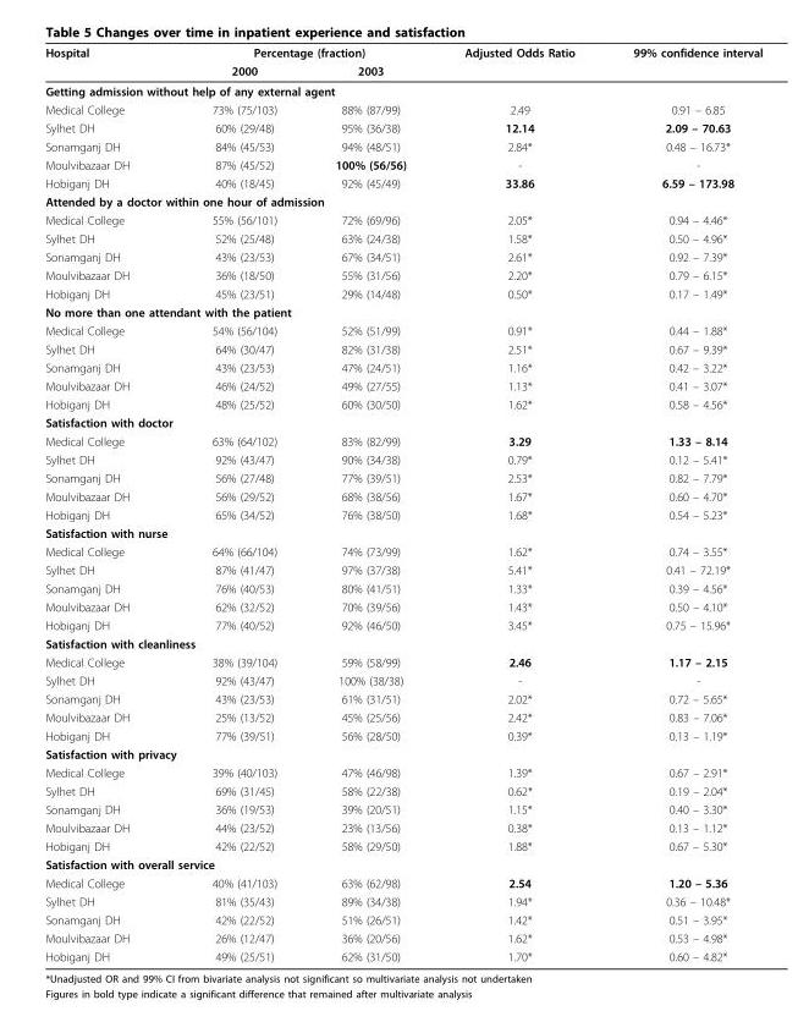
<table><thead><tr><td rowspan="2">Hospital</td><td colspan="2">Percentage (fraction)</td><td rowspan="2">Adjusted Odds Ratio</td><td rowspan="2">99% confidence interval</td></tr><tr><td>2000</td><td>2003</td></tr></thead><tbody><tr><td colspan="5">Getting admission without help of any external agent</td></tr><tr><td>Medical College</td><td>73% (75/103)</td><td>88% (87/99)</td><td>2.49</td><td>0.91 – 6.85</td></tr><tr><td>Sylhet DH</td><td>60% (29/48)</td><td>95% (36/38)</td><td>12.14</td><td>2.09 – 70.63</td></tr><tr><td>Sonamganj DH</td><td>84% (45/53)</td><td>94% (48/51)</td><td>2.84*</td><td>0.48 – 16.73*</td></tr><tr><td>Moulvibazaar DH</td><td>87% (45/52)</td><td>100% (56/56)</td><td>-</td><td>-</td></tr><tr><td>Hobiganj DH</td><td>40% (18/45)</td><td>92% (45/49)</td><td>33.86</td><td>6.59 – 173.98</td></tr><tr><td colspan="5">Attended by a doctor within one hour of admission</td></tr><tr><td>Medical College</td><td>55% (56/101)</td><td>72% (69/96)</td><td>2.05*</td><td>0.94 – 4.46*</td></tr><tr><td>Sylhet DH</td><td>52% (25/48)</td><td>63% (24/38)</td><td>1.58*</td><td>0.50 – 4.96*</td></tr><tr><td>Sonamganj DH</td><td>43% (23/53)</td><td>67% (34/51)</td><td>2.61*</td><td>0.92 – 7.39*</td></tr><tr><td>Moulvibazaar DH</td><td>36% (18/50)</td><td>55% (31/56)</td><td>2.20*</td><td>0.79 – 6.15*</td></tr><tr><td>Hobiganj DH</td><td>45% (23/51)</td><td>29% (14/48)</td><td>0.50*</td><td>0.17 – 1.49*</td></tr><tr><td colspan="5">No more than one attendant with the patient</td></tr><tr><td>Medical College</td><td>54% (56/104)</td><td>52% (51/99)</td><td>0.91*</td><td>0.44 – 1.88*</td></tr><tr><td>Sylhet DH</td><td>64% (30/47)</td><td>82% (31/38)</td><td>2.51*</td><td>0.67 – 9.39*</td></tr><tr><td>Sonamganj DH</td><td>43% (23/53)</td><td>47% (24/51)</td><td>1.16*</td><td>0.42 – 3.22*</td></tr><tr><td>Moulvibazaar DH</td><td>46% (24/52)</td><td>49% (27/55)</td><td>1.13*</td><td>0.41 – 3.07*</td></tr><tr><td>Hobiganj DH</td><td>48% (25/52)</td><td>60% (30/50)</td><td>1.62*</td><td>0.58 – 4.56*</td></tr><tr><td colspan="5">Satisfaction with doctor</td></tr><tr><td>Medical College</td><td>63% (64/102)</td><td>83% (82/99)</td><td>3.29</td><td>1.33 – 8.14</td></tr><tr><td>Sylhet DH</td><td>92% (43/47)</td><td>90% (34/38)</td><td>0.79*</td><td>0.12 – 5.41*</td></tr><tr><td>Sonamganj DH</td><td>56% (27/48)</td><td>77% (39/51)</td><td>2.53*</td><td>0.82 – 7.79*</td></tr><tr><td>Moulvibazaar DH</td><td>56% (29/52)</td><td>68% (38/56)</td><td>1.67*</td><td>0.60 – 4.70*</td></tr><tr><td>Hobiganj DH</td><td>65% (34/52)</td><td>76% (38/50)</td><td>1.68*</td><td>0.54 – 5.23*</td></tr><tr><td colspan="5">Satisfaction with nurse</td></tr><tr><td>Medical College</td><td>64% (66/104)</td><td>74% (73/99)</td><td>1.62*</td><td>0.74 – 3.55*</td></tr><tr><td>Sylhet DH</td><td>87% (41/47)</td><td>97% (37/38)</td><td>5.41*</td><td>0.41 – 72.19*</td></tr><tr><td>Sonamganj DH</td><td>76% (40/53)</td><td>80% (41/51)</td><td>1.33*</td><td>0.39 – 4.56*</td></tr><tr><td>Moulvibazaar DH</td><td>62% (32/52)</td><td>70% (39/56)</td><td>1.43*</td><td>0.50 – 4.10*</td></tr><tr><td>Hobiganj DH</td><td>77% (40/52)</td><td>92% (46/50)</td><td>3.45*</td><td>0.75 – 15.96*</td></tr><tr><td colspan="5">Satisfaction with cleanliness</td></tr><tr><td>Medical College</td><td>38% (39/104)</td><td>59% (58/99)</td><td>2.46</td><td>1.17 – 2.15</td></tr><tr><td>Sylhet DH</td><td>92% (43/47)</td><td>100% (38/38)</td><td>-</td><td>-</td></tr><tr><td>Sonamganj DH</td><td>43% (23/53)</td><td>61% (31/51)</td><td>2.02*</td><td>0.72 – 5.65*</td></tr><tr><td>Moulvibazaar DH</td><td>25% (13/52)</td><td>45% (25/56)</td><td>2.42*</td><td>0.83 – 7.06*</td></tr><tr><td>Hobiganj DH</td><td>77% (39/51)</td><td>56% (28/50)</td><td>0.39*</td><td>0.13 – 1.19*</td></tr><tr><td colspan="5">Satisfaction with privacy</td></tr><tr><td>Medical College</td><td>39% (40/103)</td><td>47% (46/98)</td><td>1.39*</td><td>0.67 – 2.91*</td></tr><tr><td>Sylhet DH</td><td>69% (31/45)</td><td>58% (22/38)</td><td>0.62*</td><td>0.19 – 2.04*</td></tr><tr><td>Sonamganj DH</td><td>36% (19/53)</td><td>39% (20/51)</td><td>1.15*</td><td>0.40 – 3.30*</td></tr><tr><td>Moulvibazaar DH</td><td>44% (23/52)</td><td>23% (13/56)</td><td>0.38*</td><td>0.13 – 1.12*</td></tr><tr><td>Hobiganj DH</td><td>42% (22/52)</td><td>58% (29/50)</td><td>1.88*</td><td>0.67 – 5.30*</td></tr><tr><td colspan="5">Satisfaction with overall service</td></tr><tr><td>Medical College</td><td>40% (41/103)</td><td>63% (62/98)</td><td>2.54</td><td>1.20 – 5.36</td></tr><tr><td>Sylhet DH</td><td>81% (35/43)</td><td>89% (34/38)</td><td>1.94*</td><td>0.36 – 10.48*</td></tr><tr><td>Sonamganj DH</td><td>42% (22/52)</td><td>51% (26/51)</td><td>1.42*</td><td>0.51 – 3.95*</td></tr><tr><td>Moulvibazaar DH</td><td>26% (12/47)</td><td>36% (20/56)</td><td>1.62*</td><td>0.53 – 4.98*</td></tr><tr><td>Hobiganj DH</td><td>49% (25/51)</td><td>62% (31/50)</td><td>1.70*</td><td>0.60 – 4.82*</td></tr></tbody></table>